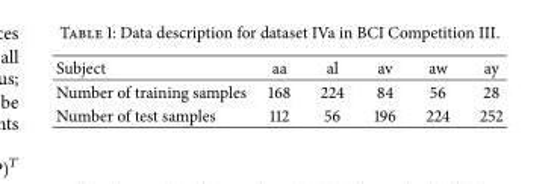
<table><thead><tr><td>Subject</td><td>aa</td><td>al</td><td>av</td><td>aw</td><td>ay</td></tr></thead><tbody><tr><td>Number of training samples</td><td>168</td><td>224</td><td>84</td><td>56</td><td>28</td></tr><tr><td>Number of test samples</td><td>112</td><td>56</td><td>196</td><td>224</td><td>252</td></tr></tbody></table>